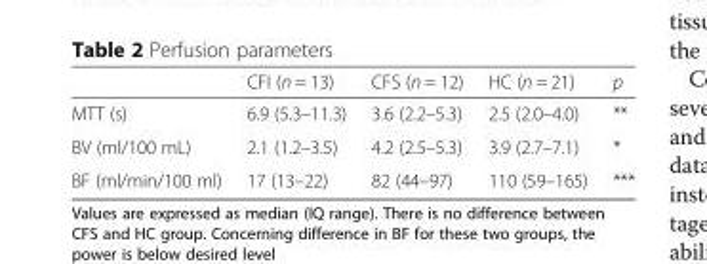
<table><thead><tr><td></td><td>CFI (n = 13)</td><td>CFS (n = 12)</td><td>HC (n = 21)</td><td>p</td></tr></thead><tbody><tr><td>MTT (s)</td><td>6.9 (5.3–11.3)</td><td>3.6 (2.2–5.3)</td><td>2.5 (2.0–4.0)</td><td>**</td></tr><tr><td>BV (ml/100 mL)</td><td>2.1 (1.2–3.5)</td><td>4.2 (2.5–5.3)</td><td>3.9 (2.7–7.1)</td><td>*</td></tr><tr><td>BF (ml/min/100 ml)</td><td>17 (13–22)</td><td>82 (44–97)</td><td>110 (59–165)</td><td>***</td></tr></tbody></table>